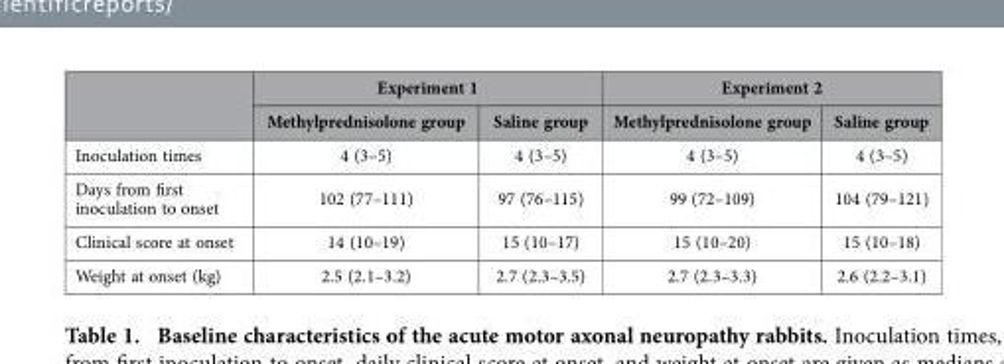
<table><thead><tr><td rowspan="2"></td><td colspan="2">Experiment 1</td><td colspan="2">Experiment 2</td></tr><tr><td>Methylprednisolone group</td><td>Saline group</td><td>Methylprednisolone group</td><td>Saline group</td></tr></thead><tbody><tr><td>Inoculation times</td><td>4 (3–5)</td><td>4 (3–5)</td><td>4 (3–5)</td><td>4 (3–5)</td></tr><tr><td>Days from first inoculation to onset</td><td>102 (77–111)</td><td>97 (76–115)</td><td>99 (72–109)</td><td>104 (79–121)</td></tr><tr><td>Clinical score at onset</td><td>14 (10–19)</td><td>15 (10–17)</td><td>15 (10–20)</td><td>15 (10–18)</td></tr><tr><td>Weight at onset (kg)</td><td>2.5 (2.1–3.2)</td><td>2.7 (2.3–3.5)</td><td>2.7 (2.3–3.3)</td><td>2.6 (2.2–3.1)</td></tr></tbody></table>